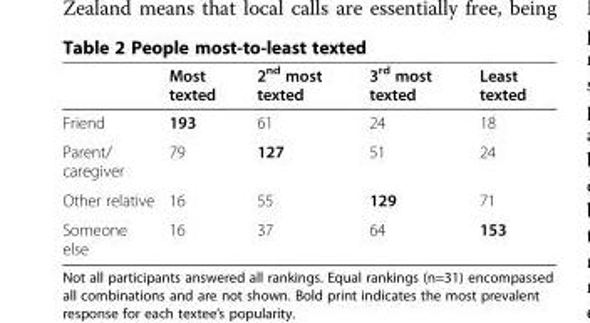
<table><thead><tr><td></td><td>Most texted</td><td>2<sup>nd</sup> most texted</td><td>3<sup>rd</sup> most texted</td><td>Least texted</td></tr></thead><tbody><tr><td>Friend</td><td>193</td><td>61</td><td>24</td><td>18</td></tr><tr><td>Parent/ caregiver</td><td>79</td><td>127</td><td>51</td><td>24</td></tr><tr><td>Other relative</td><td>16</td><td>55</td><td>129</td><td>71</td></tr><tr><td>Someone else</td><td>16</td><td>37</td><td>64</td><td>153</td></tr></tbody></table>